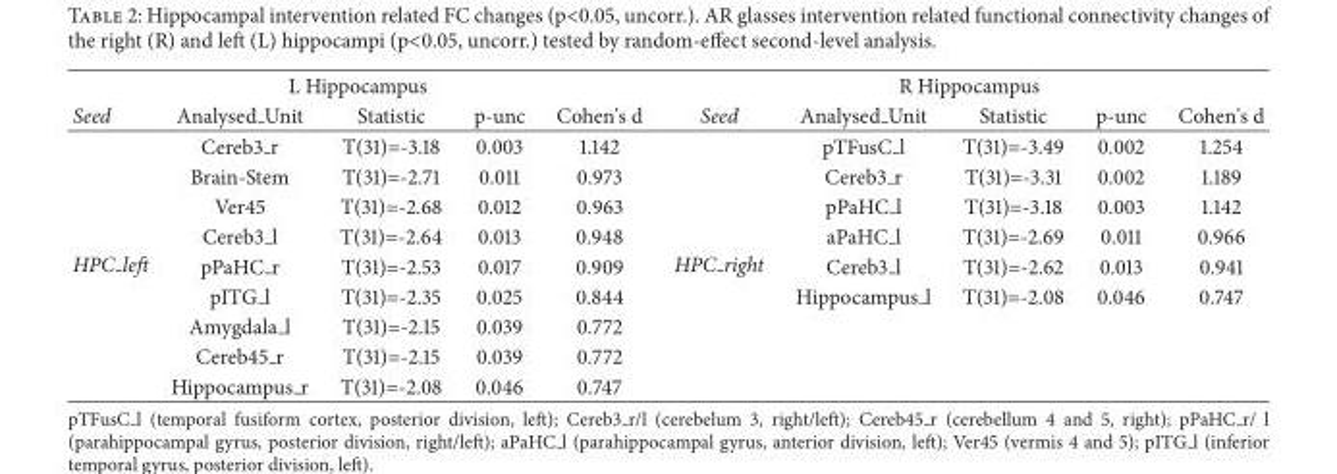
<table><thead><tr><td colspan="5">L Hippocampus</td><td colspan="5">R Hippocampus</td></tr><tr><td>Seed</td><td>Analysed Unit</td><td>Statistic</td><td>p-unc</td><td>Cohen&#x27;s d</td><td>Seed</td><td>Analysed Unit</td><td>Statistic</td><td>p-unc</td><td>Cohen&#x27;s d</td></tr></thead><tbody><tr><td rowspan="9">HPC left</td><td>Cereb3 r</td><td>T(31)=-3.18</td><td>0.003</td><td>1.142</td><td rowspan="9">HPC right</td><td>pTFusC l</td><td>T(31)=-3.49</td><td>0.002</td><td>1.254</td></tr><tr><td>Brain-Stem</td><td>T(31)=-2.71</td><td>0.011</td><td>0.973</td><td>Cereb3 r</td><td>T(31)=-3.31</td><td>0.002</td><td>1.189</td></tr><tr><td>Ver45</td><td>T(31)=-2.68</td><td>0.012</td><td>0.963</td><td>pPaHC l</td><td>T(31)=-3.18</td><td>0.003</td><td>1.142</td></tr><tr><td>Cereb3 l</td><td>T(31)=-2.64</td><td>0.013</td><td>0.948</td><td>aPaHC l</td><td>T(31)=-2.69</td><td>0.011</td><td>0.966</td></tr><tr><td>pPaHC r</td><td>T(31)=-2.53</td><td>0.017</td><td>0.909</td><td>Cereb3 l</td><td>T(31)=-2.62</td><td>0.013</td><td>0.941</td></tr><tr><td>pITG l</td><td>T(31)=-2.35</td><td>0.025</td><td>0.844</td><td>Hippocampus l</td><td>T(31)=-2.08</td><td>0.046</td><td>0.747</td></tr><tr><td>Amygdala l</td><td>T(31)=-2.15</td><td>0.039</td><td>0.772</td><td></td><td></td><td></td><td></td></tr><tr><td>Cereb45 r</td><td>T(31)=-2.15</td><td>0.039</td><td>0.772</td><td></td><td></td><td></td><td></td></tr><tr><td>Hippocampus r</td><td>T(31)=-2.08</td><td>0.046</td><td>0.747</td><td></td><td></td><td></td><td></td></tr></tbody></table>